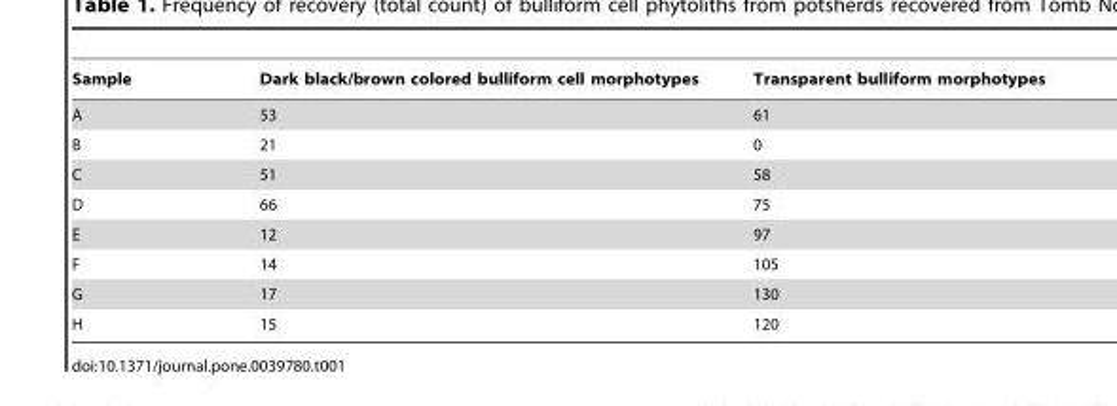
<table><thead><tr><td>Sample</td><td>Dark black/brown colored bulliform cell morphotypes</td><td>Transparent bulliform morphotypes</td></tr></thead><tbody><tr><td>A</td><td>53</td><td>61</td></tr><tr><td>B</td><td>21</td><td>0</td></tr><tr><td>C</td><td>51</td><td>58</td></tr><tr><td>D</td><td>66</td><td>75</td></tr><tr><td>E</td><td>12</td><td>97</td></tr><tr><td>F</td><td>14</td><td>105</td></tr><tr><td>G</td><td>17</td><td>130</td></tr><tr><td>H</td><td>15</td><td>120</td></tr></tbody></table>